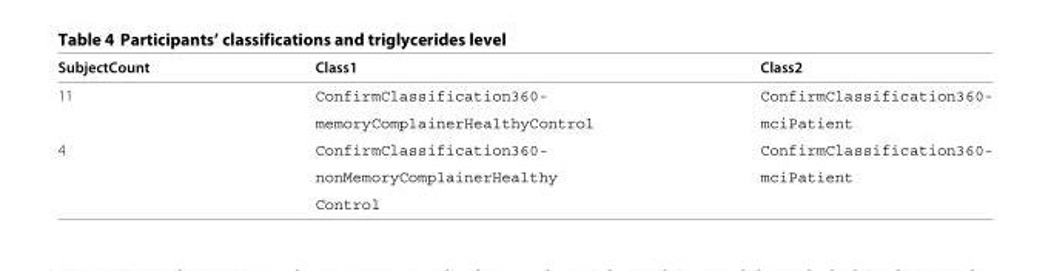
<table><thead><tr><td>SubjectCount</td><td>Class1</td><td>Class2</td></tr></thead><tbody><tr><td rowspan="2">11</td><td>ConfirmClassification360-</td><td>ConfirmClassification360-</td></tr><tr><td>memoryComplainerHealthyControl</td><td>mciPatient</td></tr><tr><td rowspan="3">4</td><td>ConfirmClassification360-</td><td>ConfirmClassification360-</td></tr><tr><td>nonMemoryComplainerHealthy</td><td>mciPatient</td></tr><tr><td>Control</td><td></td></tr></tbody></table>